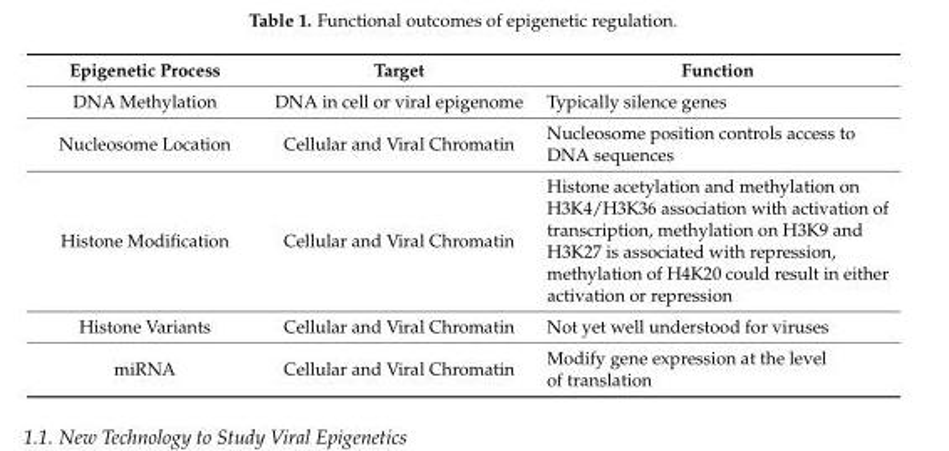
<table><thead><tr><td>Epigenetic Process</td><td>Target</td><td>Function</td></tr></thead><tbody><tr><td>DNA Methylation</td><td>DNA in cell or viral epigenome</td><td>Typically silence genes</td></tr><tr><td>Nucleosome Location</td><td>Cellular and Viral Chromatin</td><td>Nucleosome position controls access to DNA sequences</td></tr><tr><td>Histone Modification</td><td>Cellular and Viral Chromatin</td><td>Histone acetylation and methylation on H3K4/H3K36 association with activation of transcription, methylation on H3K9 and H3K27 is associated with repression, methylation of H4K20 could result in either activation or repression</td></tr><tr><td>Histone Variants</td><td>Cellular and Viral Chromatin</td><td>Not yet well understood for viruses</td></tr><tr><td>miRNA</td><td>Cellular and Viral Chromatin</td><td>Modify gene expression at the level of translation</td></tr></tbody></table>